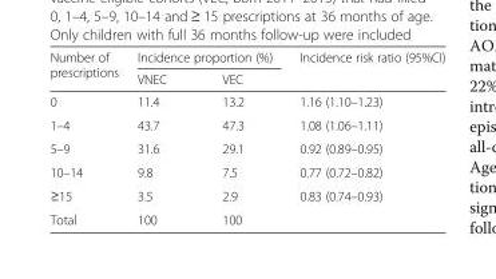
<table><thead><tr><td rowspan="2">Number of prescriptions</td><td colspan="2">Incidence proportion (%)</td><td rowspan="2">Incidence risk ratio (95%CI)</td></tr><tr><td>VNEC</td><td>VEC</td></tr></thead><tbody><tr><td>0</td><td>11.4</td><td>13.2</td><td>1.16 (1.10–1.23)</td></tr><tr><td>1–4</td><td>43.7</td><td>47.3</td><td>1.08 (1.06–1.11)</td></tr><tr><td>5–9</td><td>31.6</td><td>29.1</td><td>0.92 (0.89–0.95)</td></tr><tr><td>10–14</td><td>9.8</td><td>7.5</td><td>0.77 (0.72–0.82)</td></tr><tr><td>≥15</td><td>3.5</td><td>2.9</td><td>0.83 (0.74–0.93)</td></tr><tr><td>Total</td><td>100</td><td>100</td><td></td></tr></tbody></table>